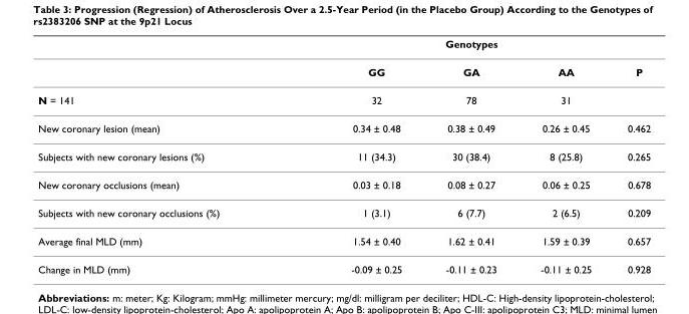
<table><thead><tr><td rowspan="2"></td><td colspan="3">Genotypes</td><td rowspan="2">P</td></tr><tr><td>GG</td><td>GA</td><td>AA</td></tr></thead><tbody><tr><td>N = 141</td><td>32</td><td>78</td><td>31</td><td></td></tr><tr><td>New coronary lesion (mean)</td><td>0.34 ± 0.48</td><td>0.38 ± 0.49</td><td>0.26 ± 0.45</td><td>0.462</td></tr><tr><td>Subjects with new coronary lesions (%)</td><td>11 (34.3)</td><td>30 (38.4)</td><td>8 (25.8)</td><td>0.265</td></tr><tr><td>New coronary occlusions (mean)</td><td>0.03 ± 0.18</td><td>0.08 ± 0.27</td><td>0.06 ± 0.25</td><td>0.678</td></tr><tr><td>Subjects with new coronary occlusions (%)</td><td>1 (3.1)</td><td>6 (7.7)</td><td>2 (6.5)</td><td>0.209</td></tr><tr><td>Average final MLD (mm)</td><td>1.54 ± 0.40</td><td>1.62 ± 0.41</td><td>1.59 ± 0.39</td><td>0.657</td></tr><tr><td>Change in MLD (mm)</td><td>-0.09 ± 0.25</td><td>-0.11 ± 0.23</td><td>-0.11 ± 0.25</td><td>0.928</td></tr></tbody></table>